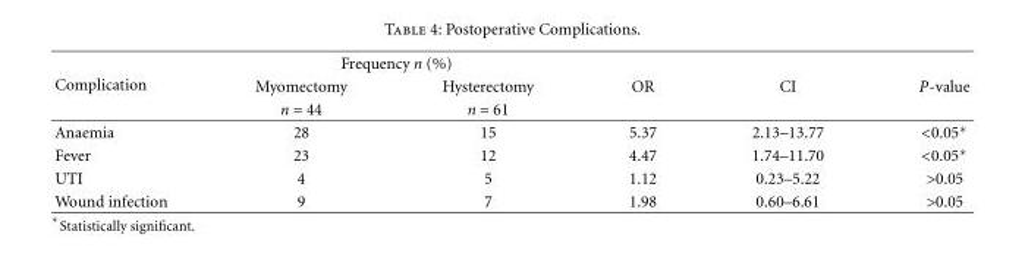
<table><thead><tr><td rowspan="3">Complication</td><td colspan="2">Frequency n (%)</td><td rowspan="3">OR</td><td rowspan="3">CI</td><td rowspan="3">P-value</td></tr><tr><td rowspan="2">Myomectomy n = 44</td><td rowspan="2">Hysterectomy n = 61</td></tr><tr></tr></thead><tbody><tr><td>Anaemia</td><td>28</td><td>15</td><td>5.37</td><td>2.13–13.77</td><td>&lt;0.05∗</td></tr><tr><td>Fever</td><td>23</td><td>12</td><td>4.47</td><td>1.74–11.70</td><td>&lt;0.05∗</td></tr><tr><td>UTI</td><td>4</td><td>5</td><td>1.12</td><td>0.23–5.22</td><td>&gt;0.05</td></tr><tr><td>Wound infection</td><td>9</td><td>7</td><td>1.98</td><td>0.60–6.61</td><td>&gt;0.05</td></tr></tbody></table>